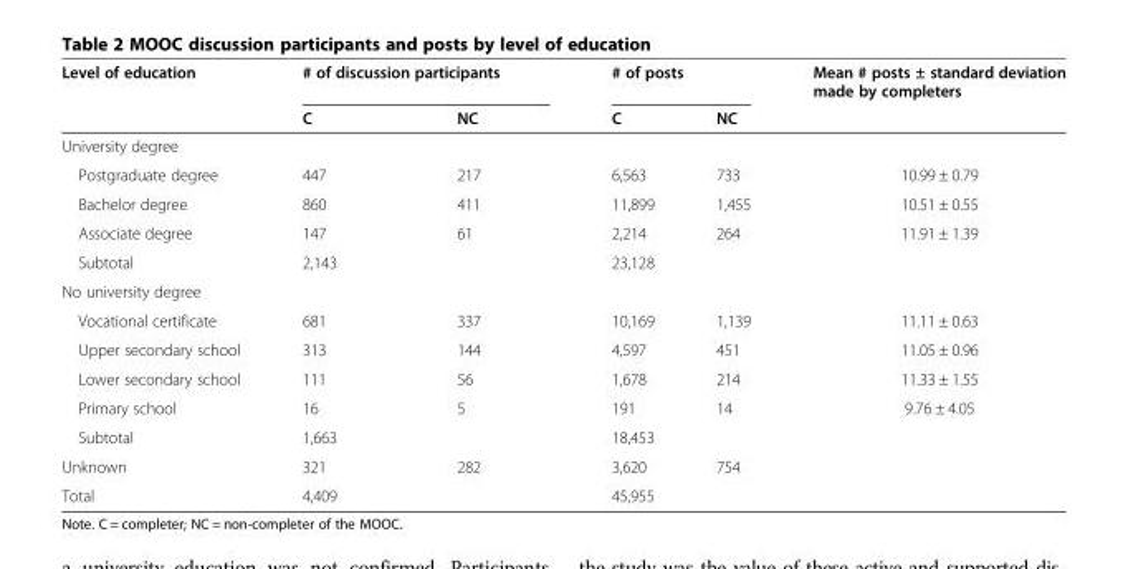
<table><thead><tr><td rowspan="2">Level of education</td><td colspan="2"># of discussion participants</td><td colspan="2"># of posts</td><td rowspan="2">Mean # posts ± standard deviation made by completers</td></tr><tr><td>C</td><td>NC</td><td>C</td><td>NC</td></tr></thead><tbody><tr><td colspan="6">University degree</td></tr><tr><td>Postgraduate degree</td><td>447</td><td>217</td><td>6,563</td><td>733</td><td>10.99 ± 0.79</td></tr><tr><td>Bachelor degree</td><td>860</td><td>411</td><td>11,899</td><td>1,455</td><td>10.51 ± 0.55</td></tr><tr><td>Associate degree</td><td>147</td><td>61</td><td>2,214</td><td>264</td><td>11.91 ± 1.39</td></tr><tr><td>Subtotal</td><td colspan="2">2,143</td><td colspan="2">23,128</td><td></td></tr><tr><td colspan="6">No university degree</td></tr><tr><td>Vocational certificate</td><td>681</td><td>337</td><td>10,169</td><td>1,139</td><td>11.11 ± 0.63</td></tr><tr><td>Upper secondary school</td><td>313</td><td>144</td><td>4,597</td><td>451</td><td>11.05 ± 0.96</td></tr><tr><td>Lower secondary school</td><td>111</td><td>56</td><td>1,678</td><td>214</td><td>11.33 ± 1.55</td></tr><tr><td>Primary school</td><td>16</td><td>5</td><td>191</td><td>14</td><td>9.76 ± 4.05</td></tr><tr><td>Subtotal</td><td colspan="2">1,663</td><td colspan="2">18,453</td><td></td></tr><tr><td>Unknown</td><td>321</td><td>282</td><td>3,620</td><td>754</td><td></td></tr><tr><td>Total</td><td colspan="2">4,409</td><td colspan="2">45,955</td><td></td></tr></tbody></table>